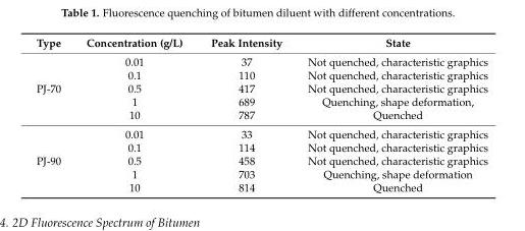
<table><thead><tr><td>Type</td><td>Concentration (g/L)</td><td>Peak Intensity</td><td>State</td></tr></thead><tbody><tr><td rowspan="5">PJ-70</td><td>0.01</td><td>37</td><td>Not quenched, characteristic graphics</td></tr><tr><td>0.1</td><td>110</td><td>Not quenched, characteristic graphics</td></tr><tr><td>0.5</td><td>417</td><td>Not quenched, characteristic graphics</td></tr><tr><td>1</td><td>689</td><td>Quenching, shape deformation,</td></tr><tr><td>10</td><td>787</td><td>Quenched</td></tr><tr><td rowspan="5">PJ-90</td><td>0.01</td><td>33</td><td>Not quenched, characteristic graphics</td></tr><tr><td>0.1</td><td>114</td><td>Not quenched, characteristic graphics</td></tr><tr><td>0.5</td><td>458</td><td>Not quenched, characteristic graphics</td></tr><tr><td>1</td><td>703</td><td>Quenching, shape deformation</td></tr><tr><td>10</td><td>814</td><td>Quenched</td></tr></tbody></table>